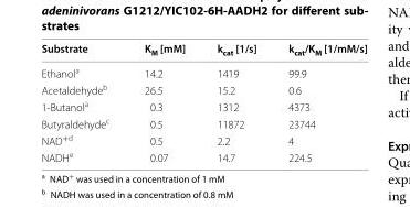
<table><thead><tr><td>Substrate</td><td>K<sub>M</sub> [mM]</td><td>k<sub>cat</sub> [1/s]</td><td>k<sub>cat</sub>/K<sub>M</sub> [1/mM/s]</td></tr></thead><tbody><tr><td>Ethanol<sup>a</sup></td><td>14.2</td><td>1419</td><td>99.9</td></tr><tr><td>Acetaldehyde<sup>b</sup></td><td>26.5</td><td>15.2</td><td>0.6</td></tr><tr><td>1-Butanol<sup>a</sup></td><td>0.3</td><td>1312</td><td>4373</td></tr><tr><td>Butyraldehyde<sup>c</sup></td><td>0.5</td><td>11872</td><td>23744</td></tr><tr><td>NAD<sup>+d</sup></td><td>0.5</td><td>2.2</td><td>4</td></tr><tr><td>NADH<sup>e</sup></td><td>0.07</td><td>14.7</td><td>224.5</td></tr></tbody></table>